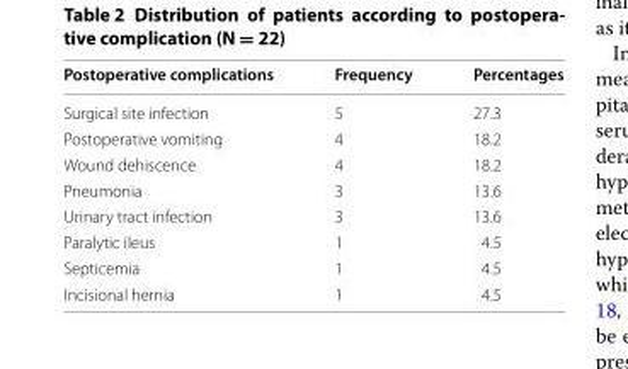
<table><thead><tr><td>Postoperative complications</td><td>Frequency</td><td>Percentages</td></tr></thead><tbody><tr><td>Surgical site infection</td><td>5</td><td>27.3</td></tr><tr><td>Postoperative vomiting</td><td>4</td><td>18.2</td></tr><tr><td>Wound dehiscence</td><td>4</td><td>18.2</td></tr><tr><td>Pneumonia</td><td>3</td><td>13.6</td></tr><tr><td>Urinary tract infection</td><td>3</td><td>13.6</td></tr><tr><td>Paralytic ileus</td><td>1</td><td>4.5</td></tr><tr><td>Septicemia</td><td>1</td><td>4.5</td></tr><tr><td>Incisional hernia</td><td>1</td><td>4.5</td></tr></tbody></table>